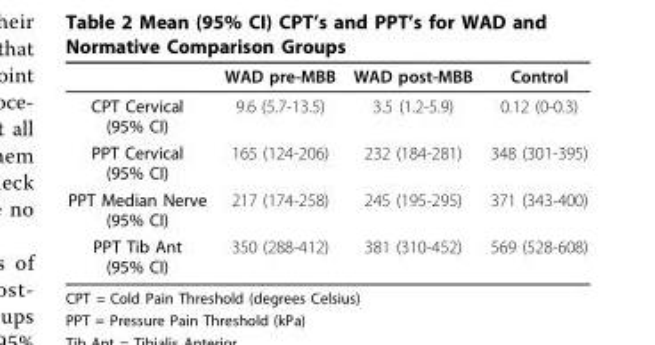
<table><thead><tr><td></td><td>WAD pre-MBB</td><td>WAD post-MBB</td><td>Control</td></tr></thead><tbody><tr><td>CPT Cervical (95% CI)</td><td>9.6 (5.7-13.5)</td><td>3.5 (1.2-5.9)</td><td>0.12 (0-0.3)</td></tr><tr><td>PPT Cervical (95% CI)</td><td>165 (124-206)</td><td>232 (184-281)</td><td>348 (301-395)</td></tr><tr><td>PPT Median Nerve (95% CI)</td><td>217 (174-258)</td><td>245 (195-295)</td><td>371 (343-400)</td></tr><tr><td>PPT Tib Ant (95% CI)</td><td>350 (288-412)</td><td>381 (310-452)</td><td>569 (528-608)</td></tr></tbody></table>